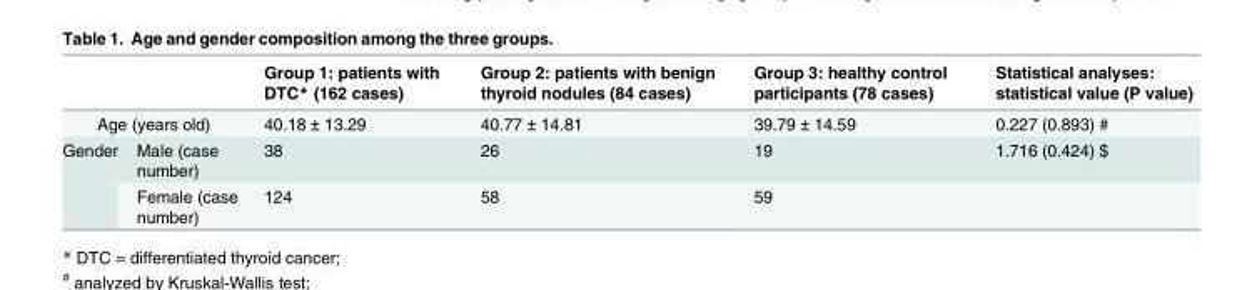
<table><thead><tr><td></td><td></td><td>Group 1: patients with DTC* (162 cases)</td><td>Group 2: patients with benign thyroid nodules (84 cases)</td><td>Group 3: healthy control participants (78 cases)</td><td>Statistical analyses: statistical value (P value)</td></tr></thead><tbody><tr><td colspan="2">Age (years old)</td><td>40.18 ± 13.29</td><td>40.77 ± 14.81</td><td>39.79 ± 14.59</td><td>0.227 (0.893) #</td></tr><tr><td rowspan="2">Gender</td><td>Male (case number)</td><td>38</td><td>26</td><td>19</td><td>1.716 (0.424) $</td></tr><tr><td>Female (case number)</td><td>124</td><td>58</td><td>59</td><td></td></tr></tbody></table>